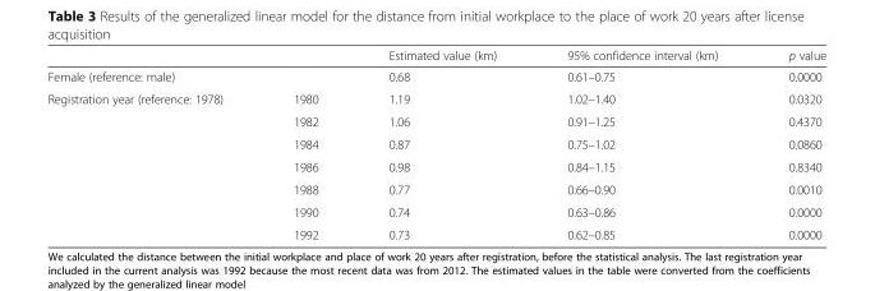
<table><thead><tr><td></td><td></td><td>Estimated value (km)</td><td>95% confidence interval (km)</td><td>p value</td></tr></thead><tbody><tr><td>Female (reference: male)</td><td></td><td>0.68</td><td>0.61–0.75</td><td>0.0000</td></tr><tr><td rowspan="7">Registration year (reference: 1978)</td><td>1980</td><td>1.19</td><td>1.02–1.40</td><td>0.0320</td></tr><tr><td>1982</td><td>1.06</td><td>0.91–1.25</td><td>0.4370</td></tr><tr><td>1984</td><td>0.87</td><td>0.75–1.02</td><td>0.0860</td></tr><tr><td>1986</td><td>0.98</td><td>0.84–1.15</td><td>0.8340</td></tr><tr><td>1988</td><td>0.77</td><td>0.66–0.90</td><td>0.0010</td></tr><tr><td>1990</td><td>0.74</td><td>0.63–0.86</td><td>0.0000</td></tr><tr><td>1992</td><td>0.73</td><td>0.62–0.85</td><td>0.0000</td></tr></tbody></table>